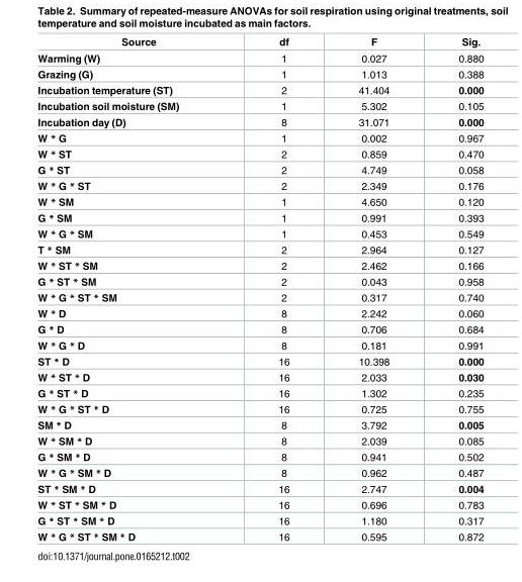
<table><thead><tr><td>Source</td><td>df</td><td>F</td><td>Sig.</td></tr></thead><tbody><tr><td>Warming (W)</td><td>1</td><td>0.027</td><td>0.880</td></tr><tr><td>Grazing (G)</td><td>1</td><td>1.013</td><td>0.388</td></tr><tr><td>Incubation temperature (ST)</td><td>2</td><td>41.404</td><td>0.000</td></tr><tr><td>Incubation soil moisture (SM)</td><td>1</td><td>5.302</td><td>0.105</td></tr><tr><td>Incubation day (D)</td><td>8</td><td>31.071</td><td>0.000</td></tr><tr><td>W * G</td><td>1</td><td>0.002</td><td>0.967</td></tr><tr><td>W * ST</td><td>2</td><td>0.859</td><td>0.470</td></tr><tr><td>G * ST</td><td>2</td><td>4.749</td><td>0.058</td></tr><tr><td>W * G * ST</td><td>2</td><td>2.349</td><td>0.176</td></tr><tr><td>W * SM</td><td>1</td><td>4.650</td><td>0.120</td></tr><tr><td>G * SM</td><td>1</td><td>0.991</td><td>0.393</td></tr><tr><td>W * G * SM</td><td>1</td><td>0.453</td><td>0.549</td></tr><tr><td>T * SM</td><td>2</td><td>2.964</td><td>0.127</td></tr><tr><td>W * ST * SM</td><td>2</td><td>2.462</td><td>0.166</td></tr><tr><td>G * ST * SM</td><td>2</td><td>0.043</td><td>0.958</td></tr><tr><td>W * G * ST * SM</td><td>2</td><td>0.317</td><td>0.740</td></tr><tr><td>W * D</td><td>8</td><td>2.242</td><td>0.060</td></tr><tr><td>G * D</td><td>8</td><td>0.706</td><td>0.684</td></tr><tr><td>W * G * D</td><td>8</td><td>0.181</td><td>0.991</td></tr><tr><td>ST * D</td><td>16</td><td>10.398</td><td>0.000</td></tr><tr><td>W * ST * D</td><td>16</td><td>2.033</td><td>0.030</td></tr><tr><td>G * ST * D</td><td>16</td><td>1.302</td><td>0.235</td></tr><tr><td>W * G * ST * D</td><td>16</td><td>0.725</td><td>0.755</td></tr><tr><td>SM * D</td><td>8</td><td>3.792</td><td>0.005</td></tr><tr><td>W * SM * D</td><td>8</td><td>2.039</td><td>0.085</td></tr><tr><td>G * SM * D</td><td>8</td><td>0.941</td><td>0.502</td></tr><tr><td>W * G * SM * D</td><td>8</td><td>0.962</td><td>0.487</td></tr><tr><td>ST * SM * D</td><td>16</td><td>2.747</td><td>0.004</td></tr><tr><td>W * ST * SM * D</td><td>16</td><td>0.696</td><td>0.783</td></tr><tr><td>G * ST * SM * D</td><td>16</td><td>1.180</td><td>0.317</td></tr><tr><td>W * G * ST * SM * D</td><td>16</td><td>0.595</td><td>0.872</td></tr></tbody></table>